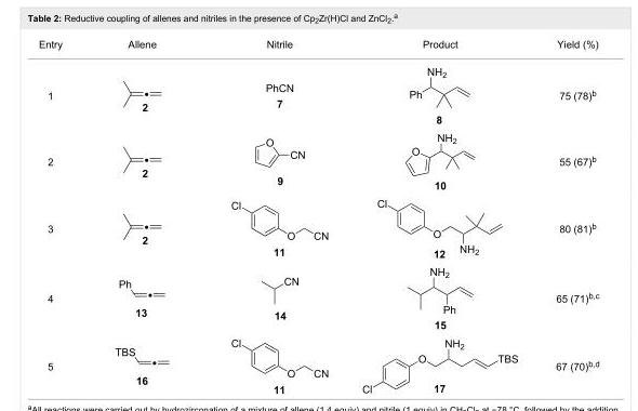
<table><tbody><tr><td>Entry</td><td>Allene</td><td>Nitrile</td><td>Product</td><td>Yield (%)</td></tr><tr><td>1</td><td></td><td></td><td></td><td>75 (78)<sup>b</sup></td></tr><tr><td>2</td><td></td><td></td><td></td><td>55 (67)<sup>b</sup></td></tr><tr><td>3</td><td></td><td></td><td></td><td>80 (81)<sup>b</sup></td></tr><tr><td>4</td><td></td><td></td><td></td><td>65 (71)<sup>b,c</sup></td></tr><tr><td>5</td><td></td><td></td><td></td><td>67 (70)<sup>b,d</sup></td></tr></tbody></table>